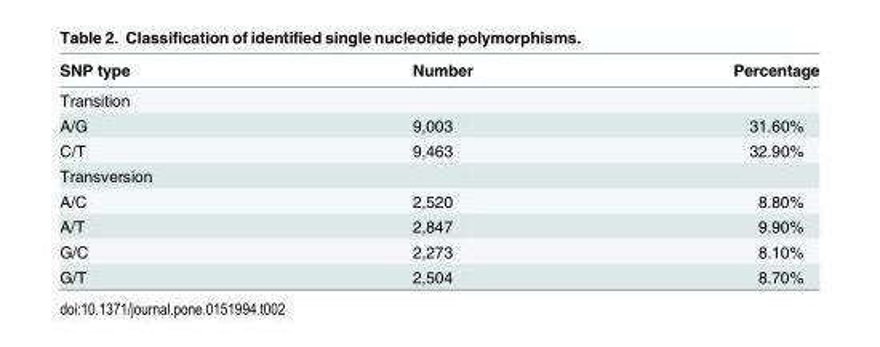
<table><thead><tr><td>SNP type</td><td>Number</td><td>Percentage</td></tr></thead><tbody><tr><td colspan="3">Transition</td></tr><tr><td>A/G</td><td>9,003</td><td>31.60%</td></tr><tr><td>C/T</td><td>9,463</td><td>32.90%</td></tr><tr><td colspan="3">Transversion</td></tr><tr><td>A/C</td><td>2,520</td><td>8.80%</td></tr><tr><td>A/T</td><td>2,847</td><td>9.90%</td></tr><tr><td>G/C</td><td>2,273</td><td>8.10%</td></tr><tr><td>G/T</td><td>2,504</td><td>8.70%</td></tr></tbody></table>